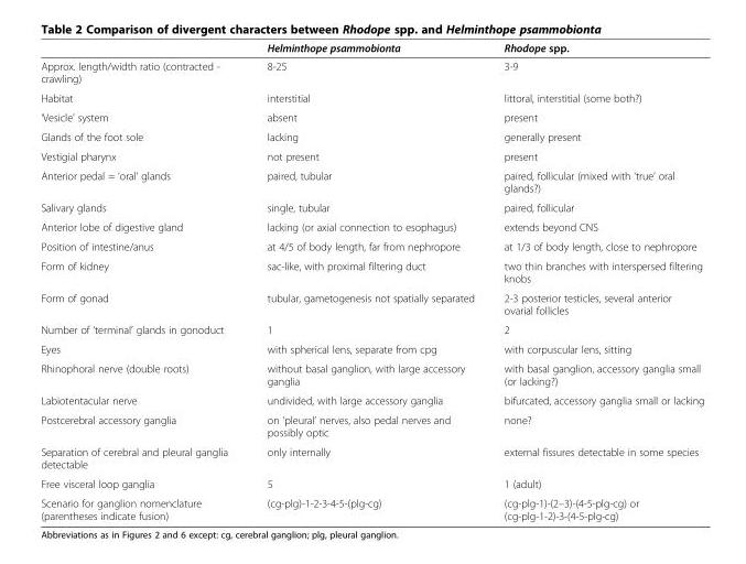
<table><thead><tr><td></td><td>Helminthope psammobionta</td><td>Rhodope spp.</td></tr></thead><tbody><tr><td>Approx. length/width ratio (contracted - crawling)</td><td>8-25</td><td>3-9</td></tr><tr><td>Habitat</td><td>interstitial</td><td>littoral, interstitial (some both?)</td></tr><tr><td>‘Vesicle’ system</td><td>absent</td><td>present</td></tr><tr><td>Glands of the foot sole</td><td>lacking</td><td>generally present</td></tr><tr><td>Vestigial pharynx</td><td>not present</td><td>present</td></tr><tr><td>Anterior pedal = ‘oral’ glands</td><td>paired, tubular</td><td>paired, follicular (mixed with ‘true’ oral glands?)</td></tr><tr><td>Salivary glands</td><td>single, tubular</td><td>paired, follicular</td></tr><tr><td>Anterior lobe of digestive gland</td><td>lacking (or axial connection to esophagus)</td><td>extends beyond CNS</td></tr><tr><td>Position of intestine/anus</td><td>at 4/5 of body length, far from nephropore</td><td>at 1/3 of body length, close to nephropore</td></tr><tr><td>Form of kidney</td><td>sac-like, with proximal filtering duct</td><td>two thin branches with interspersed filtering knobs</td></tr><tr><td>Form of gonad</td><td>tubular, gametogenesis not spatially separated</td><td>2-3 posterior testicles, several anterior ovarial follicles</td></tr><tr><td>Number of ‘terminal’ glands in gonoduct</td><td>1</td><td>2</td></tr><tr><td>Eyes</td><td>with spherical lens, separate from cpg</td><td>with corpuscular lens, sitting</td></tr><tr><td>Rhinophoral nerve (double roots)</td><td>without basal ganglion, with large accessory ganglia</td><td>with basal ganglion, accessory ganglia small (or lacking?)</td></tr><tr><td>Labiotentacular nerve</td><td>undivided, with large accessory ganglia</td><td>bifurcated, accessory ganglia small or lacking</td></tr><tr><td>Postcerebral accessory ganglia</td><td>on ‘pleural’ nerves, also pedal nerves and possibly optic</td><td>none?</td></tr><tr><td>Separation of cerebral and pleural ganglia detectable</td><td>only internally</td><td>external fissures detectable in some species</td></tr><tr><td>Free visceral loop ganglia</td><td>5</td><td>1 (adult)</td></tr><tr><td>Scenario for ganglion nomenclature (parentheses indicate fusion)</td><td>(cg-plg)-1-2-3-4-5-(plg-cg)</td><td>(cg-plg-1)-(2–3)-(4-5-plg-cg) or (cg-plg-1-2)-3-(4-5-plg-cg)</td></tr></tbody></table>